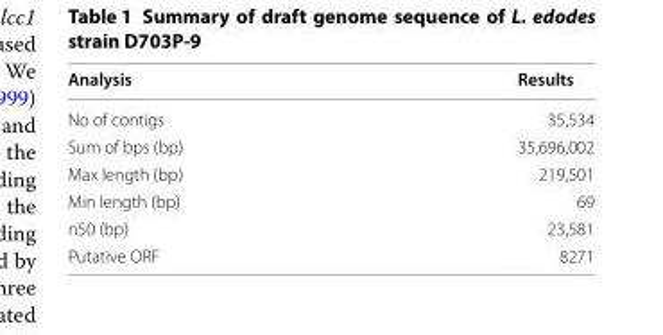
<table><thead><tr><td>Analysis</td><td>Results</td></tr></thead><tbody><tr><td>No of contigs</td><td>35,534</td></tr><tr><td>Sum of bps (bp)</td><td>35,696,002</td></tr><tr><td>Max length (bp)</td><td>219,501</td></tr><tr><td>Min length (bp)</td><td>69</td></tr><tr><td>n50 (bp)</td><td>23,581</td></tr><tr><td>Putative ORF</td><td>8271</td></tr></tbody></table>